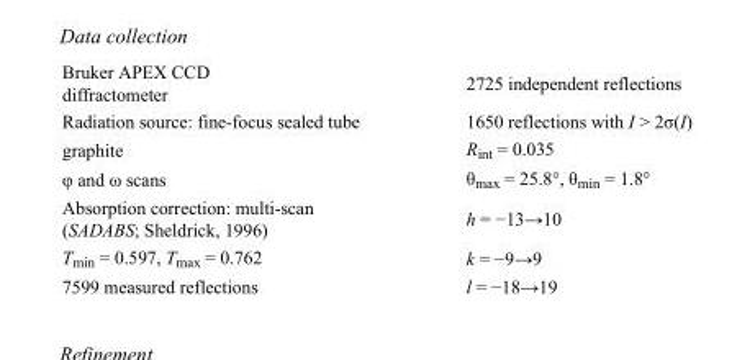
<table><tbody><tr><td>Bruker APEX CCD diffractometer</td><td>2725 independent reflections</td></tr><tr><td>Radiation source: fine-focus sealed tube</td><td>1650 reflections with I &gt; 2σ(I)</td></tr><tr><td>graphite</td><td>R<sub>int</sub> = 0.035</td></tr><tr><td>φ and ω scans</td><td>θ<sub>max</sub> = 25.8°, θ<sub>min</sub> = 1.8°</td></tr><tr><td>Absorption correction: multi-scan (SADABS; Sheldrick, 1996)</td><td>h = −13→10</td></tr><tr><td>T<sub>min</sub> = 0.597, T<sub>max</sub> = 0.762</td><td>k = −9→9</td></tr><tr><td>7599 measured reflections</td><td>l = −18→19</td></tr></tbody></table>